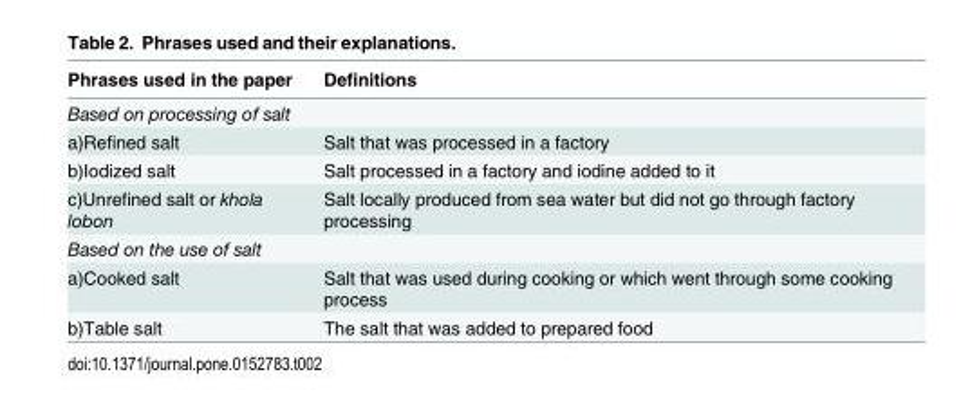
<table><thead><tr><td>Phrases used in the paper</td><td>Definitions</td></tr></thead><tbody><tr><td colspan="2">Based on processing of salt</td></tr><tr><td>a)Refined salt</td><td>Salt that was processed in a factory</td></tr><tr><td>b)Iodized salt</td><td>Salt processed in a factory and iodine added to it</td></tr><tr><td>c)Unrefined salt or khola lobon</td><td>Salt locally produced from sea water but did not go through factory processing</td></tr><tr><td colspan="2">Based on the use of salt</td></tr><tr><td>a)Cooked salt</td><td>Salt that was used during cooking or which went through some cooking process</td></tr><tr><td>b)Table salt</td><td>The salt that was added to prepared food</td></tr></tbody></table>